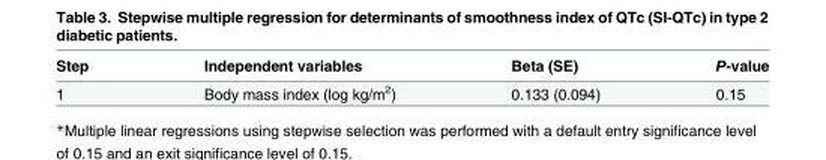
<table><thead><tr><td>Step</td><td>Independent variables</td><td>Beta (SE)</td><td>P-value</td></tr></thead><tbody><tr><td>1</td><td>Body mass index (log kg/m<sup>2</sup>)</td><td>0.133 (0.094)</td><td>0.15</td></tr></tbody></table>